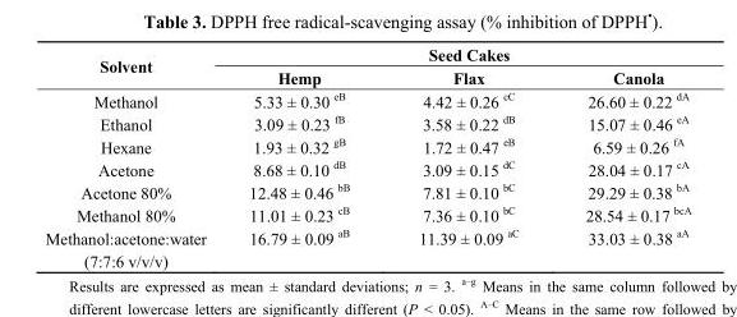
<table><thead><tr><td rowspan="2">Solvent</td><td colspan="3">Seed Cakes</td></tr><tr><td>Hemp</td><td>Flax</td><td>Canola</td></tr></thead><tbody><tr><td>Methanol</td><td>5.33 ± 0.30 <sup>eB</sup></td><td>4.42 ± 0.26 <sup>cC</sup></td><td>26.60 ± 0.22 <sup>dA</sup></td></tr><tr><td>Ethanol</td><td>3.09 ± 0.23 <sup>fB</sup></td><td>3.58 ± 0.22 <sup>dB</sup></td><td>15.07 ± 0.46 <sup>eA</sup></td></tr><tr><td>Hexane</td><td>1.93 ± 0.32 <sup>gB</sup></td><td>1.72 ± 0.47 <sup>eB</sup></td><td>6.59 ± 0.26 <sup>fA</sup></td></tr><tr><td>Acetone</td><td>8.68 ± 0.10 <sup>dB</sup></td><td>3.09 ± 0.15 <sup>dC</sup></td><td>28.04 ± 0.17 <sup>cA</sup></td></tr><tr><td>Acetone 80%</td><td>12.48 ± 0.46 <sup>bB</sup></td><td>7.81 ± 0.10 <sup>bC</sup></td><td>29.29 ± 0.38 <sup>bA</sup></td></tr><tr><td>Methanol 80%</td><td>11.01 ± 0.23 <sup>cB</sup></td><td>7.36 ± 0.10 <sup>bC</sup></td><td>28.54 ± 0.17 <sup>bcA</sup></td></tr><tr><td>Methanol:acetone:water (7:7:6 v/v/v)</td><td>16.79 ± 0.09 <sup>aB</sup></td><td>11.39 ± 0.09 <sup>aC</sup></td><td>33.03 ± 0.38 <sup>aA</sup></td></tr></tbody></table>